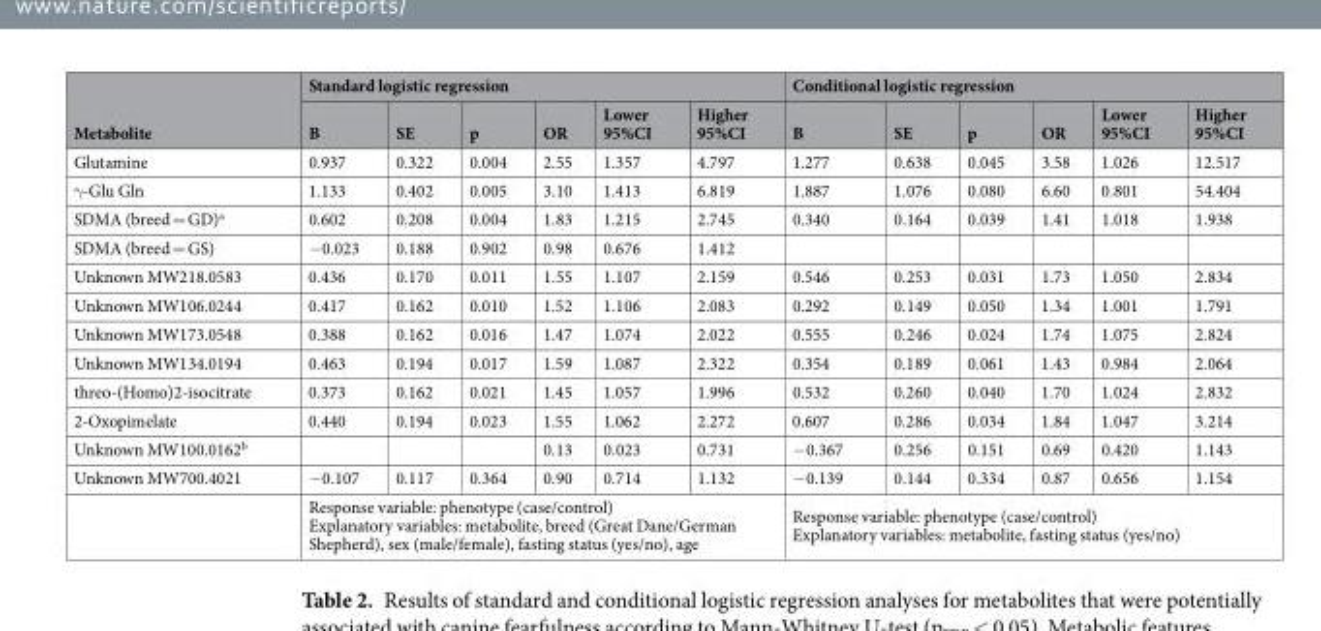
<table><thead><tr><td rowspan="2">Metabolite</td><td colspan="6">Standard logistic regression</td><td colspan="6">Conditional logistic regression</td></tr><tr><td>B</td><td>SE</td><td>p</td><td>OR</td><td>Lower 95%CI</td><td>Higher 95%CI</td><td>B</td><td>SE</td><td>p</td><td>OR</td><td>Lower 95%CI</td><td>Higher 95%CI</td></tr></thead><tbody><tr><td>Glutamine</td><td>0.937</td><td>0.322</td><td>0.004</td><td>2.55</td><td>1.357</td><td>4.797</td><td>1.277</td><td>0.638</td><td>0.045</td><td>3.58</td><td>1.026</td><td>12.517</td></tr><tr><td>γ-Glu Gln</td><td>1.133</td><td>0.402</td><td>0.005</td><td>3.10</td><td>1.413</td><td>6.819</td><td>1.887</td><td>1.076</td><td>0.080</td><td>6.60</td><td>0.801</td><td>54.404</td></tr><tr><td>SDMA (breed = GD)<sup>a</sup></td><td>0.602</td><td>0.208</td><td>0.004</td><td>1.83</td><td>1.215</td><td>2.745</td><td>0.340</td><td>0.164</td><td>0.039</td><td>1.41</td><td>1.018</td><td>1.938</td></tr><tr><td>SDMA (breed = GS)</td><td>−0.023</td><td>0.188</td><td>0.902</td><td>0.98</td><td>0.676</td><td>1.412</td><td></td><td></td><td></td><td></td><td></td><td></td></tr><tr><td>Unknown MW218.0583</td><td>0.436</td><td>0.170</td><td>0.011</td><td>1.55</td><td>1.107</td><td>2.159</td><td>0.546</td><td>0.253</td><td>0.031</td><td>1.73</td><td>1.050</td><td>2.834</td></tr><tr><td>Unknown MW106.0244</td><td>0.417</td><td>0.162</td><td>0.010</td><td>1.52</td><td>1.106</td><td>2.083</td><td>0.292</td><td>0.149</td><td>0.050</td><td>1.34</td><td>1.001</td><td>1.791</td></tr><tr><td>Unknown MW173.0548</td><td>0.388</td><td>0.162</td><td>0.016</td><td>1.47</td><td>1.074</td><td>2.022</td><td>0.555</td><td>0.246</td><td>0.024</td><td>1.74</td><td>1.075</td><td>2.824</td></tr><tr><td>Unknown MW134.0194</td><td>0.463</td><td>0.194</td><td>0.017</td><td>1.59</td><td>1.087</td><td>2.322</td><td>0.354</td><td>0.189</td><td>0.061</td><td>1.43</td><td>0.984</td><td>2.064</td></tr><tr><td>threo-(Homo)2-isocitrate</td><td>0.373</td><td>0.162</td><td>0.021</td><td>1.45</td><td>1.057</td><td>1.996</td><td>0.532</td><td>0.260</td><td>0.040</td><td>1.70</td><td>1.024</td><td>2.832</td></tr><tr><td>2-Oxopimelate</td><td>0.440</td><td>0.194</td><td>0.023</td><td>1.55</td><td>1.062</td><td>2.272</td><td>0.607</td><td>0.286</td><td>0.034</td><td>1.84</td><td>1.047</td><td>3.214</td></tr><tr><td>Unknown MW100.0162<sup>b</sup></td><td></td><td></td><td></td><td>0.13</td><td>0.023</td><td>0.731</td><td>−0.367</td><td>0.256</td><td>0.151</td><td>0.69</td><td>0.420</td><td>1.143</td></tr><tr><td rowspan="2">Unknown MW700.4021</td><td>−0.107</td><td>0.117</td><td>0.364</td><td>0.90</td><td>0.714</td><td>1.132</td><td>−0.139</td><td>0.144</td><td>0.334</td><td>0.87</td><td>0.656</td><td>1.154</td></tr><tr><td colspan="6">Response variable: phenotype (case/control) Explanatory variables: metabolite, breed (Great Dane/German Shepherd), sex (male/female), fasting status (yes/no), age</td><td colspan="6">Response variable: phenotype (case/control) Explanatory variables: metabolite, fasting status (yes/no)</td></tr></tbody></table>